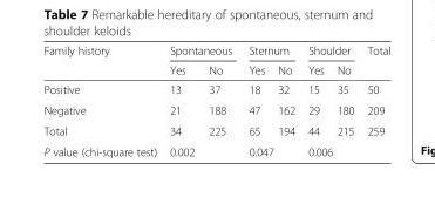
<table><thead><tr><td rowspan="2">Family history</td><td colspan="2">Spontaneous</td><td colspan="2">Sternum</td><td colspan="2">Shoulder</td><td rowspan="2">Total</td></tr><tr><td>Yes</td><td>No</td><td>Yes</td><td>No</td><td>Yes</td><td>No</td></tr></thead><tbody><tr><td>Positive</td><td>13</td><td>37</td><td>18</td><td>32</td><td>15</td><td>35</td><td>50</td></tr><tr><td>Negative</td><td>21</td><td>188</td><td>47</td><td>162</td><td>29</td><td>180</td><td>209</td></tr><tr><td>Total</td><td>34</td><td>225</td><td>65</td><td>194</td><td>44</td><td>215</td><td>259</td></tr><tr><td>P value (chi-square test)</td><td colspan="2">0.002</td><td colspan="2">0.047</td><td colspan="2">0.006</td><td></td></tr></tbody></table>